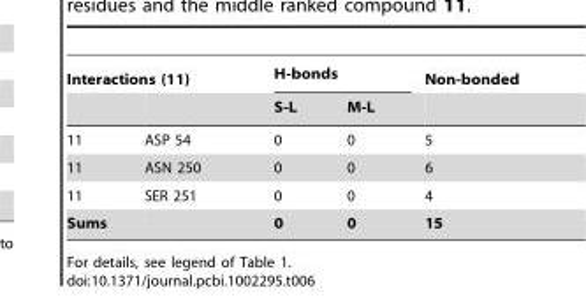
<table><thead><tr><td colspan="2">Interactions (11)</td><td colspan="2">H-bonds</td><td rowspan="2">Non-bonded</td></tr><tr><td></td><td></td><td>S-L</td><td>M-L</td></tr></thead><tbody><tr><td>11</td><td>ASP 54</td><td>0</td><td>0</td><td>5</td></tr><tr><td>11</td><td>ASN 250</td><td>0</td><td>0</td><td>6</td></tr><tr><td>11</td><td>SER 251</td><td>0</td><td>0</td><td>4</td></tr><tr><td>Sums</td><td></td><td>0</td><td>0</td><td>15</td></tr></tbody></table>